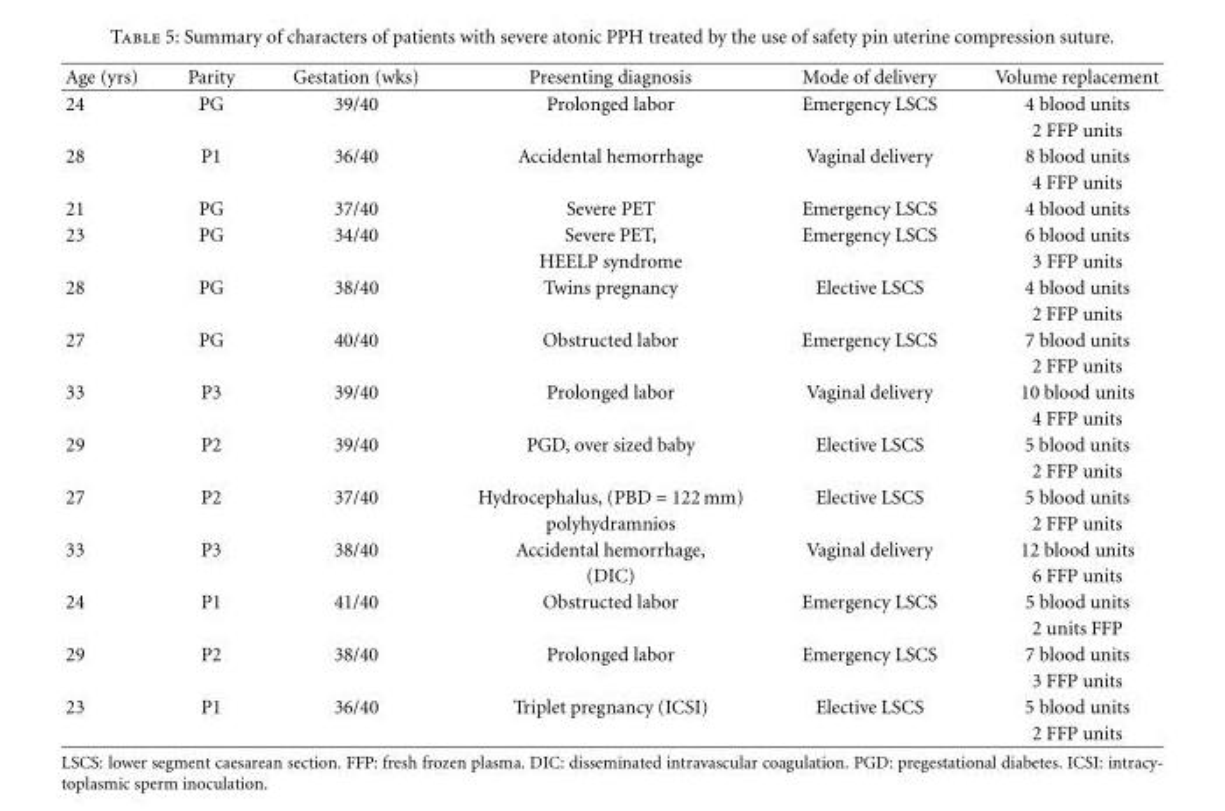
<table><thead><tr><td>Age (yrs)</td><td>Parity</td><td>Gestation (wks)</td><td>Presenting diagnosis</td><td>Mode of delivery</td><td>Volume replacement</td></tr></thead><tbody><tr><td rowspan="2">24</td><td>PG</td><td>39/40</td><td>Prolonged labor</td><td>Emergency LSCS</td><td>4 blood units</td></tr><tr><td></td><td></td><td></td><td></td><td>2 FFP units</td></tr><tr><td rowspan="2">28</td><td>P1</td><td>36/40</td><td>Accidental hemorrhage</td><td>Vaginal delivery</td><td>8 blood units</td></tr><tr><td></td><td></td><td></td><td></td><td>4 FFP units</td></tr><tr><td>21</td><td>PG</td><td>37/40</td><td>Severe PET</td><td>Emergency LSCS</td><td>4 blood units</td></tr><tr><td rowspan="2">23</td><td>PG</td><td>34/40</td><td>Severe PET,</td><td>Emergency LSCS</td><td>6 blood units</td></tr><tr><td></td><td></td><td>HEELP syndrome</td><td></td><td>3 FFP units</td></tr><tr><td rowspan="2">28</td><td>PG</td><td>38/40</td><td>Twins pregnancy</td><td>Elective LSCS</td><td>4 blood units</td></tr><tr><td></td><td></td><td></td><td></td><td>2 FFP units</td></tr><tr><td rowspan="2">27</td><td>PG</td><td>40/40</td><td>Obstructed labor</td><td>Emergency LSCS</td><td>7 blood units</td></tr><tr><td></td><td></td><td></td><td></td><td>2 FFP units</td></tr><tr><td rowspan="2">33</td><td>P3</td><td>39/40</td><td>Prolonged labor</td><td>Vaginal delivery</td><td>10 blood units</td></tr><tr><td></td><td></td><td></td><td></td><td>4 FFP units</td></tr><tr><td rowspan="2">29</td><td>P2</td><td>39/40</td><td>PGD, over sized baby</td><td>Elective LSCS</td><td>5 blood units</td></tr><tr><td></td><td></td><td></td><td></td><td>2 FFP units</td></tr><tr><td rowspan="2">27</td><td>P2</td><td>37/40</td><td>Hydrocephalus, (PBD = 122 mm)</td><td>Elective LSCS</td><td>5 blood units</td></tr><tr><td></td><td></td><td>polyhydramnios</td><td></td><td>2 FFP units</td></tr><tr><td rowspan="2">33</td><td>P3</td><td>38/40</td><td>Accidental hemorrhage,</td><td>Vaginal delivery</td><td>12 blood units</td></tr><tr><td></td><td></td><td>(DIC)</td><td></td><td>6 FFP units</td></tr><tr><td rowspan="2">24</td><td>P1</td><td>41/40</td><td>Obstructed labor</td><td>Emergency LSCS</td><td>5 blood units</td></tr><tr><td></td><td></td><td></td><td></td><td>2 units FFP</td></tr><tr><td rowspan="2">29</td><td>P2</td><td>38/40</td><td>Prolonged labor</td><td>Emergency LSCS</td><td>7 blood units</td></tr><tr><td></td><td></td><td></td><td></td><td>3 FFP units</td></tr><tr><td rowspan="2">23</td><td>P1</td><td>36/40</td><td>Triplet pregnancy (ICSI)</td><td>Elective LSCS</td><td>5 blood units</td></tr><tr><td></td><td></td><td></td><td></td><td>2 FFP units</td></tr></tbody></table>